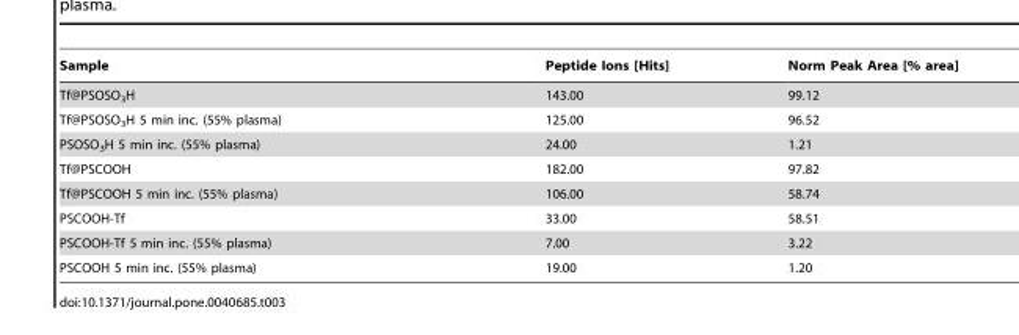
<table><thead><tr><td>Sample</td><td>Peptide Ions [Hits]</td><td>Norm Peak Area [% area]</td></tr></thead><tbody><tr><td>Tf@PSOSO<sub>3</sub>H</td><td>143.00</td><td>99.12</td></tr><tr><td>Tf@PSOSO<sub>3</sub>H 5 min inc. (55% plasma)</td><td>125.00</td><td>96.52</td></tr><tr><td>PSOSO<sub>3</sub>H 5 min inc. (55% plasma)</td><td>24.00</td><td>1.21</td></tr><tr><td>Tf@PSCOOH</td><td>182.00</td><td>97.82</td></tr><tr><td>Tf@PSCOOH 5 min inc. (55% plasma)</td><td>106.00</td><td>58.74</td></tr><tr><td>PSCOOH-Tf</td><td>33.00</td><td>58.51</td></tr><tr><td>PSCOOH-Tf 5 min inc. (55% plasma)</td><td>7.00</td><td>3.22</td></tr><tr><td>PSCOOH 5 min inc. (55% plasma)</td><td>19.00</td><td>1.20</td></tr></tbody></table>